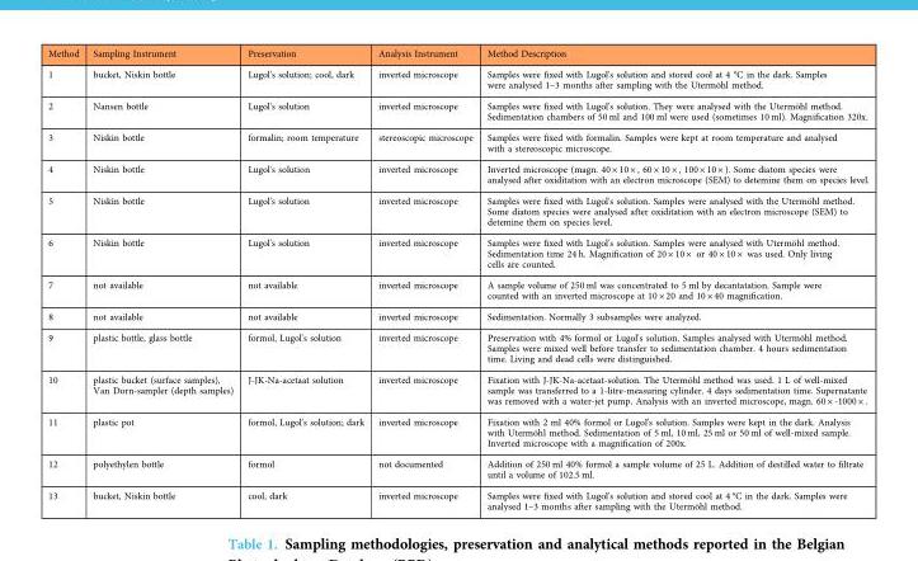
<table><thead><tr><td>Method</td><td>Sampling Instrument</td><td>Preservation</td><td>Analysis Instrument</td><td>Method Description</td></tr></thead><tbody><tr><td>1</td><td>bucket, Niskin bottle</td><td>Lugol&#x27;s solution; cool, dark</td><td>inverted microscope</td><td>Samples were fixed with Lugol&#x27;s solution and stored cool at 4 °C in the dark. Samples were analysed 1–3 months after sampling with the Utermöhl method.</td></tr><tr><td>2</td><td>Nansen bottle</td><td>Lugol&#x27;s solution</td><td>inverted microscope</td><td>Samples were fixed with Lugol&#x27;s solution. They were analysed with the Utermöhl method. Sedimentation chambers of 50 ml and 100 ml were used (sometimes 10 ml). Magnification 320x.</td></tr><tr><td>3</td><td>Niskin bottle</td><td>formalin; room temperature</td><td>stereoscopic microscope</td><td>Samples were fixed with formalin. Samples were kept at room temperature and analysed with a stereoscopic microscope.</td></tr><tr><td>4</td><td>Niskin bottle</td><td>Lugol&#x27;s solution</td><td>inverted microscope</td><td>Inverted microscope (magn. 40 × 10 × , 60 × 10 × , 100 × 10 × ). Some diatom species were analysed after oxiditation with an electron microscope (SEM) to detemine them on species level.</td></tr><tr><td>5</td><td>Niskin bottle</td><td>Lugol&#x27;s solution</td><td>inverted microscope</td><td>Samples were fixed with Lugol&#x27;s solution. Samples were analysed with the Utermöhl method. Some diatom species were analysed after oxiditation with an electron microscope (SEM) to detemine them on species level.</td></tr><tr><td>6</td><td>Niskin bottle</td><td>Lugol&#x27;s solution</td><td>inverted microscope</td><td>Samples were fixed with Lugol&#x27;s solution. Samples were analysed with Utermöhl method. Sedimentation time 24 h. Magnification of 20 × 10 × or 40 × 10 × was used. Only living cells are counted.</td></tr><tr><td>7</td><td>not available</td><td>not available</td><td>inverted microscope</td><td>A sample volume of 250 ml was concentrated to 5 ml by decantatation. Sample were counted with an inverted microscope at 10 × 20 and 10 × 40 magnification.</td></tr><tr><td>8</td><td>not available</td><td>not available</td><td>inverted microscope</td><td>Sedimentation. Normally 3 subsamples were analyzed.</td></tr><tr><td>9</td><td>plastic bottle, glass bottle</td><td>formol, Lugol&#x27;s solution</td><td>inverted microscope</td><td>Preservation with 4% formol or Lugol&#x27;s solution. Samples analysed with Utermöhl method. Samples were mixed well before transfer to sedimentation chamber. 4 hours sedimentation time. Living and dead cells were distinguished.</td></tr><tr><td>10</td><td>plastic bucket (surface samples), Van Dorn-sampler (depth samples)</td><td>J-JK-Na-acetaat solution</td><td>inverted microscope</td><td>Fixation with J-JK-Na-acetaat-solution. The Utermöhl method was used. 1 L of well-mixed sample was transferred to a 1-litre-measuring cylinder. 4 days sedimentation time. Supernatante was removed with a water-jet pump. Analysis with an inverted microscope, magn. 60 × -1000 × .</td></tr><tr><td>11</td><td>plastic pot</td><td>formol, Lugol&#x27;s solution; dark</td><td>inverted microscope</td><td>Fixation with 2 ml 40% formol or Lugol&#x27;s solution. Samples were kept in the dark. Analysis with Utermöhl method. Sedimentation of 5 ml, 10 ml, 25 ml or 50 ml of well-mixed sample. Inverted microscope with a magnification of 200x.</td></tr><tr><td>12</td><td>polyethylen bottle</td><td>formol</td><td>not documented</td><td>Addition of 250 ml 40% formol a sample volume of 25 L. Addition of destilled water to filtrate until a volume of 102.5 ml.</td></tr><tr><td>13</td><td>bucket, Niskin bottle</td><td>cool, dark</td><td>inverted microscope</td><td>Samples were fixed with Lugol&#x27;s solution and stored cool at 4 °C in the dark. Samples were analysed 1–3 months after sampling with the Utermöhl method.</td></tr></tbody></table>